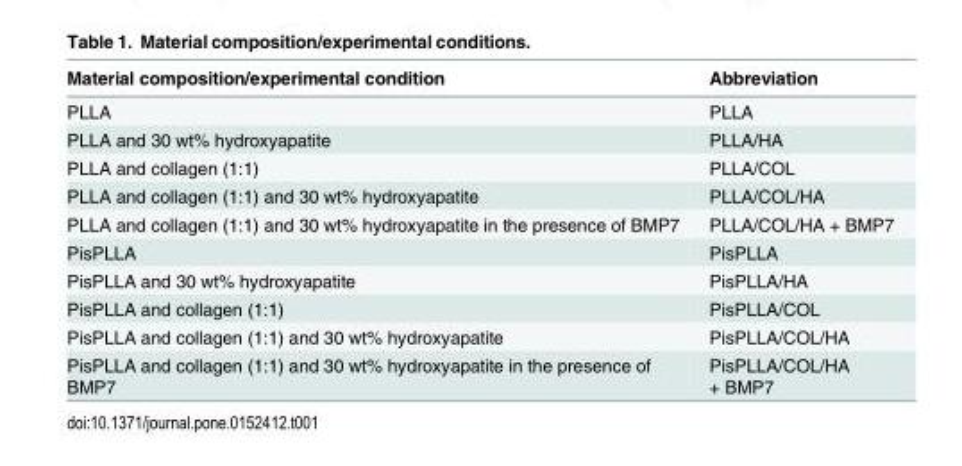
<table><thead><tr><td>Material composition/experimental condition</td><td>Abbreviation</td></tr></thead><tbody><tr><td>PLLA</td><td>PLLA</td></tr><tr><td>PLLA and 30 wt% hydroxyapatite</td><td>PLLA/HA</td></tr><tr><td>PLLA and collagen (1:1)</td><td>PLLA/COL</td></tr><tr><td>PLLA and collagen (1:1) and 30 wt% hydroxyapatite</td><td>PLLA/COL/HA</td></tr><tr><td>PLLA and collagen (1:1) and 30 wt% hydroxyapatite in the presence of BMP7</td><td>PLLA/COL/HA + BMP7</td></tr><tr><td>PisPLLA</td><td>PisPLLA</td></tr><tr><td>PisPLLA and 30 wt% hydroxyapatite</td><td>PisPLLA/HA</td></tr><tr><td>PisPLLA and collagen (1:1)</td><td>PisPLLA/COL</td></tr><tr><td>PisPLLA and collagen (1:1) and 30 wt% hydroxyapatite</td><td>PisPLLA/COL/HA</td></tr><tr><td>PisPLLA and collagen (1:1) and 30 wt% hydroxyapatite in the presence of BMP7</td><td>PisPLLA/COL/HA + BMP7</td></tr></tbody></table>